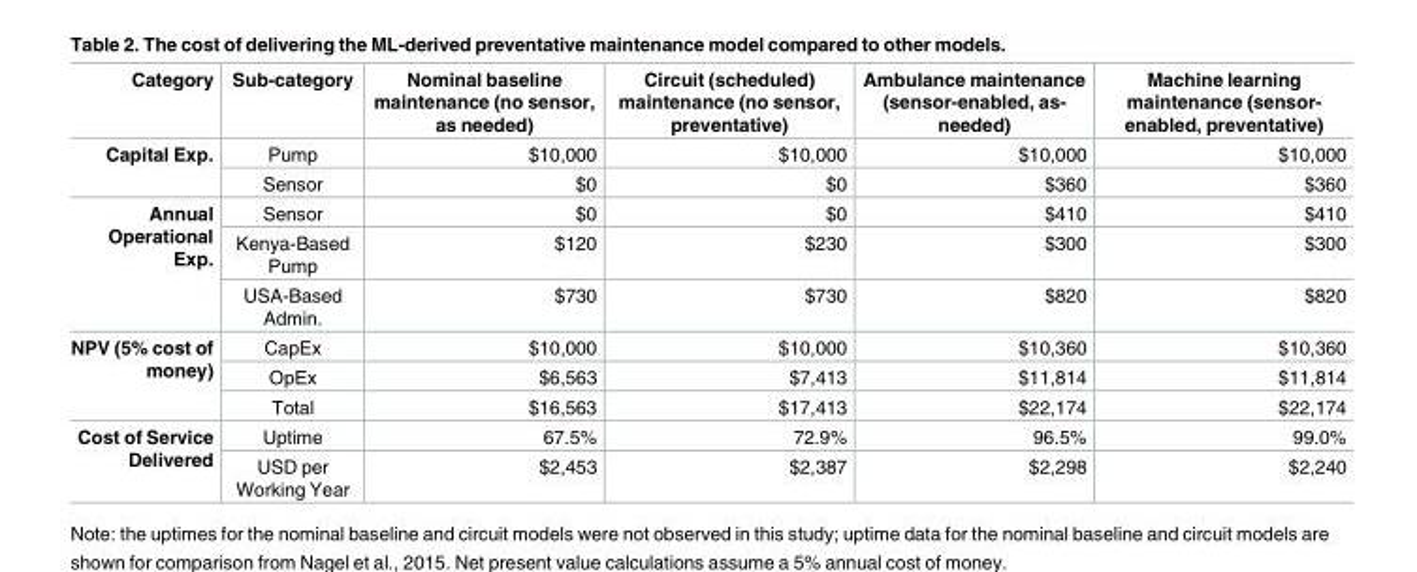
<table><thead><tr><td>Category</td><td>Sub-category</td><td>Nominal baseline maintenance (no sensor, as needed)</td><td>Circuit (scheduled) maintenance (no sensor, preventative)</td><td>Ambulance maintenance (sensor-enabled, as- needed)</td><td>Machine learning maintenance (sensor- enabled, preventative)</td></tr></thead><tbody><tr><td rowspan="2">Capital Exp.</td><td>Pump</td><td>$10,000</td><td>$10,000</td><td>$10,000</td><td>$10,000</td></tr><tr><td>Sensor</td><td>$0</td><td>$0</td><td>$360</td><td>$360</td></tr><tr><td rowspan="3">Annual Operational Exp.</td><td>Sensor</td><td>$0</td><td>$0</td><td>$410</td><td>$410</td></tr><tr><td>Kenya-Based Pump</td><td>$120</td><td>$230</td><td>$300</td><td>$300</td></tr><tr><td>USA-Based Admin.</td><td>$730</td><td>$730</td><td>$820</td><td>$820</td></tr><tr><td rowspan="3">NPV (5% cost of money)</td><td>CapEx</td><td>$10,000</td><td>$10,000</td><td>$10,360</td><td>$10,360</td></tr><tr><td>OpEx</td><td>$6,563</td><td>$7,413</td><td>$11,814</td><td>$11,814</td></tr><tr><td>Total</td><td>$16,563</td><td>$17,413</td><td>$22,174</td><td>$22,174</td></tr><tr><td rowspan="2">Cost of Service Delivered</td><td>Uptime</td><td>67.5%</td><td>72.9%</td><td>96.5%</td><td>99.0%</td></tr><tr><td>USD per Working Year</td><td>$2,453</td><td>$2,387</td><td>$2,298</td><td>$2,240</td></tr></tbody></table>